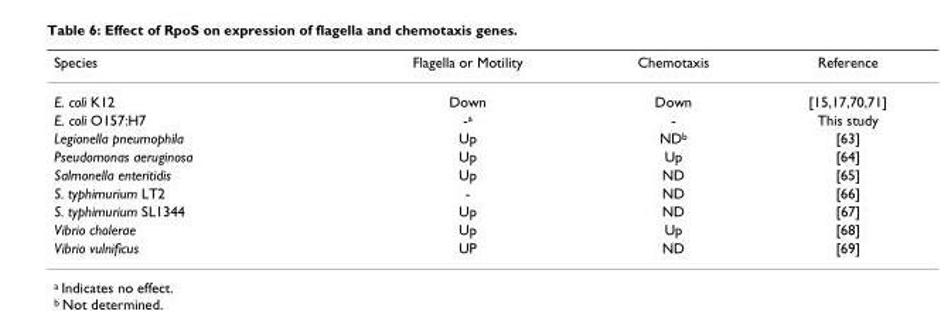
<table><thead><tr><td>Species</td><td>Flagella or Motility</td><td>Chemotaxis</td><td>Reference</td></tr></thead><tbody><tr><td>E. coli K12</td><td>Down</td><td>Down</td><td>[15,17,70,71]</td></tr><tr><td>E. coli O157:H7</td><td>-<sup>a</sup></td><td>-</td><td>This study</td></tr><tr><td>Legionella pneumophila</td><td>Up</td><td>ND<sup>b</sup></td><td>[63]</td></tr><tr><td>Pseudomonas aeruginosa</td><td>Up</td><td>Up</td><td>[64]</td></tr><tr><td>Salmonella enteritidis</td><td>Up</td><td>ND</td><td>[65]</td></tr><tr><td>S. typhimurium LT2</td><td>-</td><td>ND</td><td>[66]</td></tr><tr><td>S. typhimurium SL1344</td><td>Up</td><td>ND</td><td>[67]</td></tr><tr><td>Vibrio cholerae</td><td>Up</td><td>Up</td><td>[68]</td></tr><tr><td>Vibrio vulnificus</td><td>UP</td><td>ND</td><td>[69]</td></tr></tbody></table>